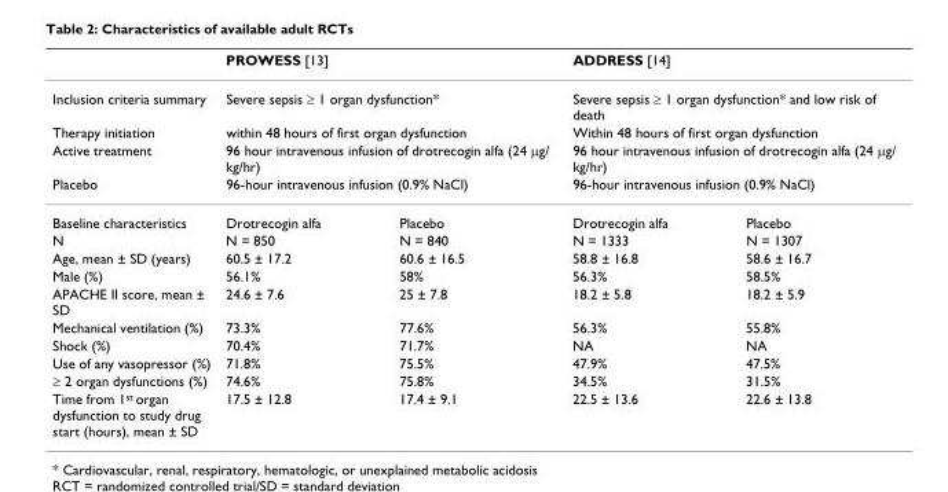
<table><thead><tr><td></td><td colspan="2">PROWESS [13]</td><td colspan="2">ADDRESS [14]</td></tr></thead><tbody><tr><td>Inclusion criteria summary</td><td colspan="2">Severe sepsis ≥ 1 organ dysfunction*</td><td colspan="2">Severe sepsis ≥ 1 organ dysfunction* and low risk of death</td></tr><tr><td>Therapy initiation</td><td colspan="2">within 48 hours of first organ dysfunction</td><td colspan="2">Within 48 hours of first organ dysfunction</td></tr><tr><td>Active treatment</td><td colspan="2">96 hour intravenous infusion of drotrecogin alfa (24 μg/ kg/hr)</td><td colspan="2">96 hour intravenous infusion of drotrecogin alfa (24 μg/ kg/hr)</td></tr><tr><td>Placebo</td><td colspan="2">96-hour intravenous infusion (0.9% NaCl)</td><td colspan="2">96-hour intravenous infusion (0.9% NaCl)</td></tr><tr><td>Baseline characteristics</td><td>Drotrecogin alfa</td><td>Placebo</td><td>Drotrecogin alfa</td><td>Placebo</td></tr><tr><td>N</td><td>N = 850</td><td>N = 840</td><td>N = 1333</td><td>N = 1307</td></tr><tr><td>Age, mean ± SD (years)</td><td>60.5 ± 17.2</td><td>60.6 ± 16.5</td><td>58.8 ± 16.8</td><td>58.6 ± 16.7</td></tr><tr><td>Male (%)</td><td>56.1%</td><td>58%</td><td>56.3%</td><td>58.5%</td></tr><tr><td>APACHE II score, mean ± SD</td><td>24.6 ± 7.6</td><td>25 ± 7.8</td><td>18.2 ± 5.8</td><td>18.2 ± 5.9</td></tr><tr><td>Mechanical ventilation (%)</td><td>73.3%</td><td>77.6%</td><td>56.3%</td><td>55.8%</td></tr><tr><td>Shock (%)</td><td>70.4%</td><td>71.7%</td><td>NA</td><td>NA</td></tr><tr><td>Use of any vasopressor (%)</td><td>71.8%</td><td>75.5%</td><td>47.9%</td><td>47.5%</td></tr><tr><td>≥ 2 organ dysfunctions (%)</td><td>74.6%</td><td>75.8%</td><td>34.5%</td><td>31.5%</td></tr><tr><td>Time from 1<sup>st</sup> organ dysfunction to study drug start (hours), mean ± SD</td><td>17.5 ± 12.8</td><td>17.4 ± 9.1</td><td>22.5 ± 13.6</td><td>22.6 ± 13.8</td></tr></tbody></table>